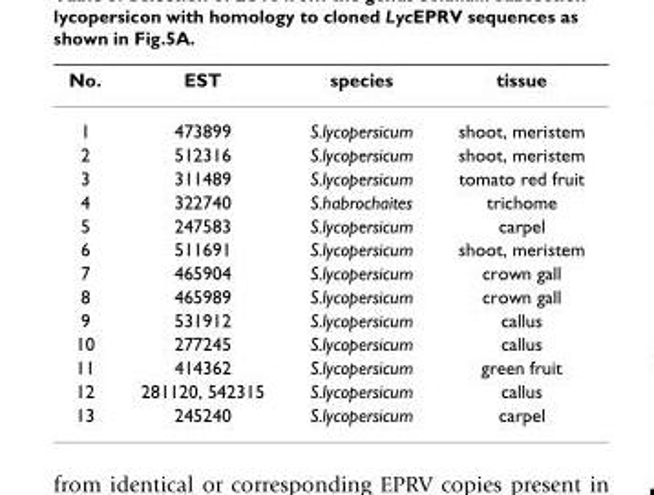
<table><thead><tr><td>No.</td><td>EST</td><td>species</td><td>tissue</td></tr></thead><tbody><tr><td>1</td><td>473899</td><td>S.lycopersicum</td><td>shoot, meristem</td></tr><tr><td>2</td><td>512316</td><td>S.lycopersicum</td><td>shoot, meristem</td></tr><tr><td>3</td><td>311489</td><td>S.lycopersicum</td><td>tomato red fruit</td></tr><tr><td>4</td><td>322740</td><td>S.habrochaites</td><td>trichome</td></tr><tr><td>5</td><td>247583</td><td>S.lycopersicum</td><td>carpel</td></tr><tr><td>6</td><td>511691</td><td>S.lycopersicum</td><td>shoot, meristem</td></tr><tr><td>7</td><td>465904</td><td>S.lycopersicum</td><td>crown gall</td></tr><tr><td>8</td><td>465989</td><td>S.lycopersicum</td><td>crown gall</td></tr><tr><td>9</td><td>531912</td><td>S.lycopersicum</td><td>callus</td></tr><tr><td>10</td><td>277245</td><td>S.lycopersicum</td><td>callus</td></tr><tr><td>11</td><td>414362</td><td>S.lycopersicum</td><td>green fruit</td></tr><tr><td>12</td><td>281120, 542315</td><td>S.lycopersicum</td><td>callus</td></tr><tr><td>13</td><td>245240</td><td>S.lycopersicum</td><td>carpel</td></tr></tbody></table>